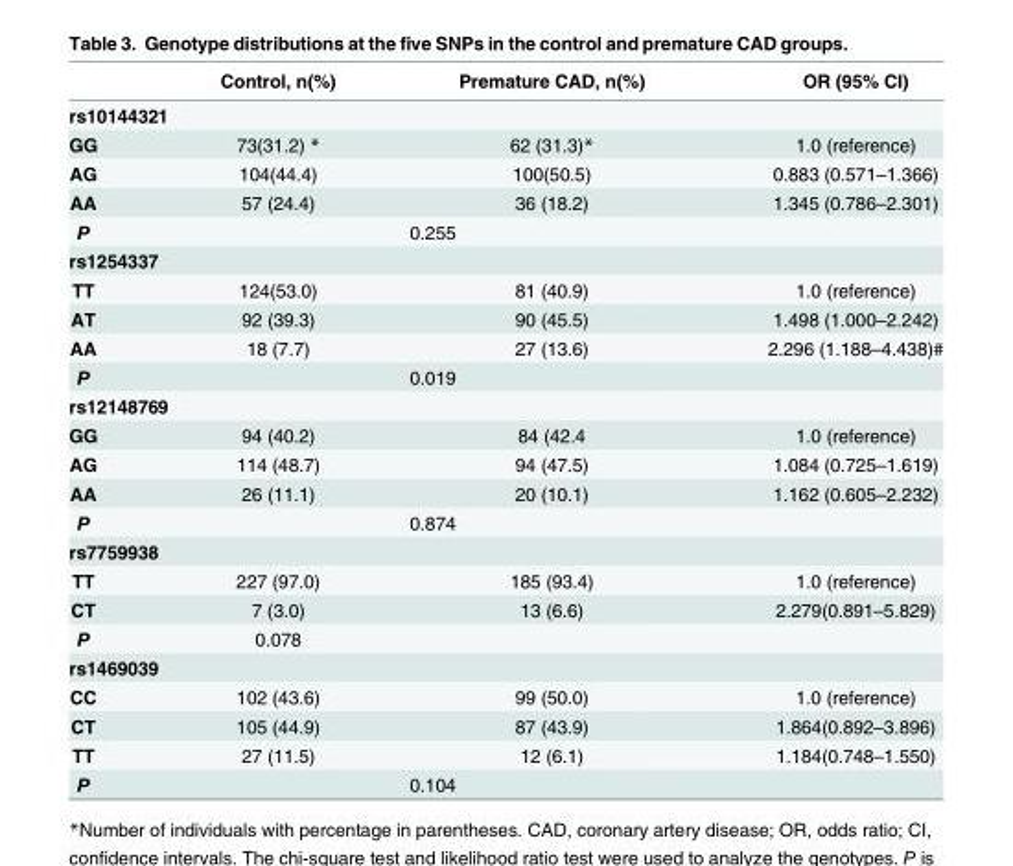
<table><thead><tr><td></td><td>Control, n(%)</td><td>Premature CAD, n(%)</td><td>OR (95% CI)</td></tr></thead><tbody><tr><td colspan="4">rs10144321</td></tr><tr><td>GG</td><td>73(31.2) *</td><td>62 (31.3)*</td><td>1.0 (reference)</td></tr><tr><td>AG</td><td>104(44.4)</td><td>100(50.5)</td><td>0.883 (0.571–1.366)</td></tr><tr><td>AA</td><td>57 (24.4)</td><td>36 (18.2)</td><td>1.345 (0.786–2.301)</td></tr><tr><td>P</td><td colspan="2">0.255</td><td></td></tr><tr><td colspan="4">rs1254337</td></tr><tr><td>TT</td><td>124(53.0)</td><td>81 (40.9)</td><td>1.0 (reference)</td></tr><tr><td>AT</td><td>92 (39.3)</td><td>90 (45.5)</td><td>1.498 (1.000–2.242)</td></tr><tr><td>AA</td><td>18 (7.7)</td><td>27 (13.6)</td><td>2.296 (1.188–4.438)#</td></tr><tr><td>P</td><td colspan="2">0.019</td><td></td></tr><tr><td colspan="4">rs12148769</td></tr><tr><td>GG</td><td>94 (40.2)</td><td>84 (42.4</td><td>1.0 (reference)</td></tr><tr><td>AG</td><td>114 (48.7)</td><td>94 (47.5)</td><td>1.084 (0.725–1.619)</td></tr><tr><td>AA</td><td>26 (11.1)</td><td>20 (10.1)</td><td>1.162 (0.605–2.232)</td></tr><tr><td>P</td><td colspan="2">0.874</td><td></td></tr><tr><td colspan="4">rs7759938</td></tr><tr><td>TT</td><td>227 (97.0)</td><td>185 (93.4)</td><td>1.0 (reference)</td></tr><tr><td>CT</td><td>7 (3.0)</td><td>13 (6.6)</td><td>2.279(0.891–5.829)</td></tr><tr><td>P</td><td>0.078</td><td></td><td></td></tr><tr><td colspan="4">rs1469039</td></tr><tr><td>CC</td><td>102 (43.6)</td><td>99 (50.0)</td><td>1.0 (reference)</td></tr><tr><td>CT</td><td>105 (44.9)</td><td>87 (43.9)</td><td>1.864(0.892–3.896)</td></tr><tr><td>TT</td><td>27 (11.5)</td><td>12 (6.1)</td><td>1.184(0.748–1.550)</td></tr><tr><td>P</td><td colspan="2">0.104</td><td></td></tr></tbody></table>